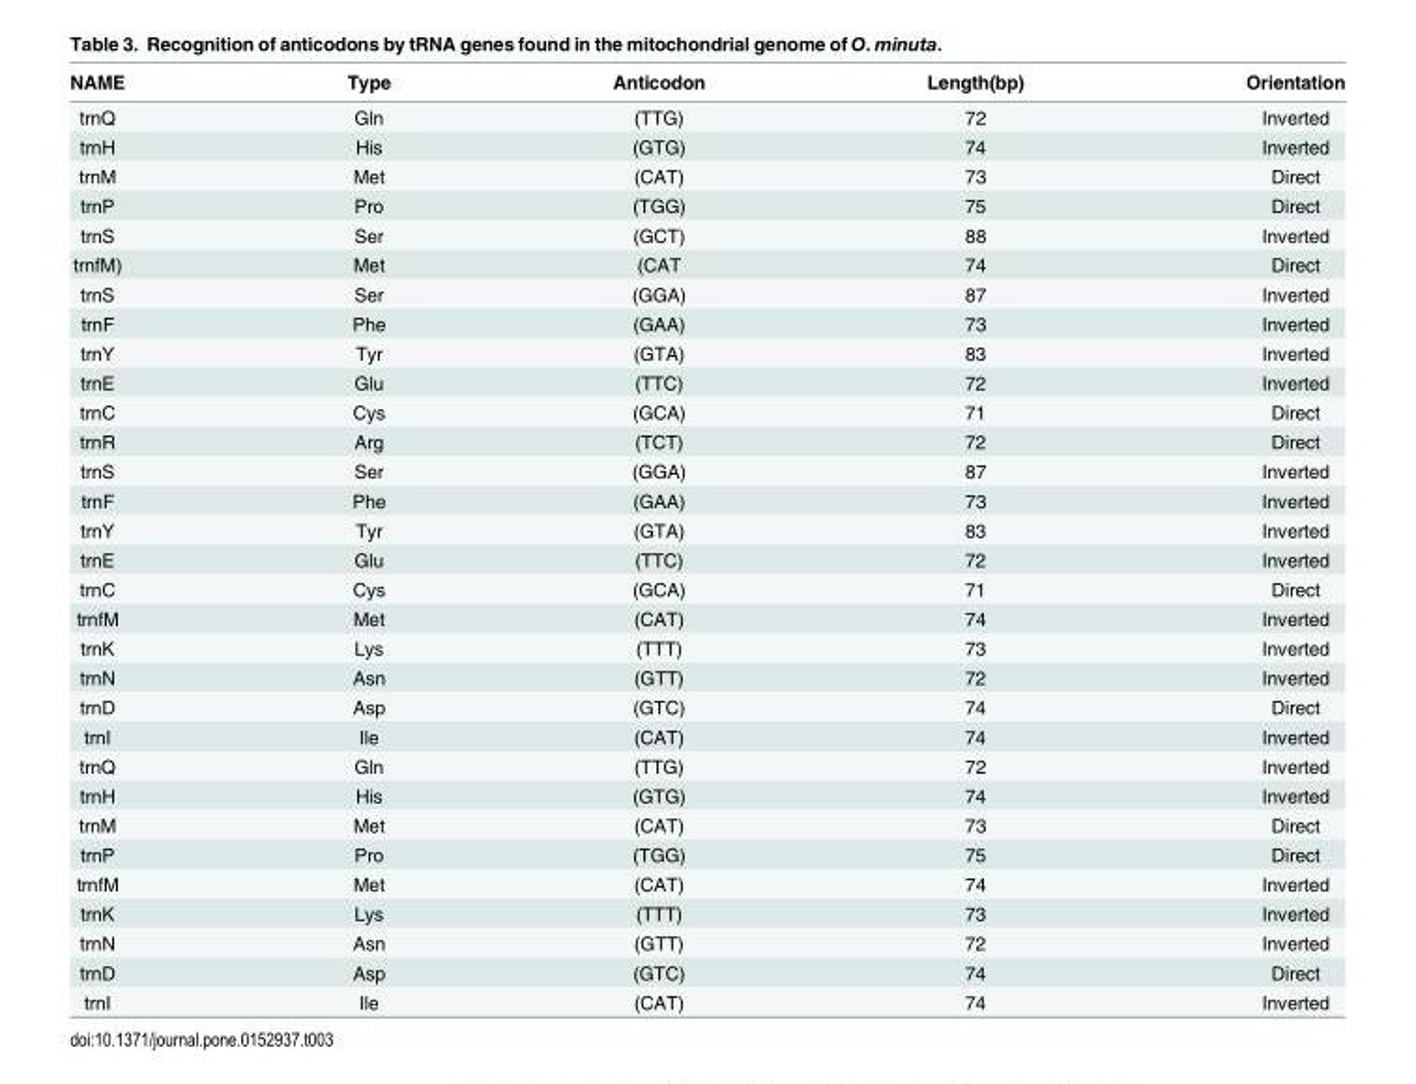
<table><thead><tr><td>NAME</td><td>Type</td><td>Anticodon</td><td>Length(bp)</td><td>Orientation</td></tr></thead><tbody><tr><td>trnQ</td><td>Gln</td><td>(TTG)</td><td>72</td><td>Inverted</td></tr><tr><td>trnH</td><td>His</td><td>(GTG)</td><td>74</td><td>Inverted</td></tr><tr><td>trnM</td><td>Met</td><td>(CAT)</td><td>73</td><td>Direct</td></tr><tr><td>trnP</td><td>Pro</td><td>(TGG)</td><td>75</td><td>Direct</td></tr><tr><td>trnS</td><td>Ser</td><td>(GCT)</td><td>88</td><td>Inverted</td></tr><tr><td>trnfM)</td><td>Met</td><td>(CAT</td><td>74</td><td>Direct</td></tr><tr><td>trnS</td><td>Ser</td><td>(GGA)</td><td>87</td><td>Inverted</td></tr><tr><td>trnF</td><td>Phe</td><td>(GAA)</td><td>73</td><td>Inverted</td></tr><tr><td>trnY</td><td>Tyr</td><td>(GTA)</td><td>83</td><td>Inverted</td></tr><tr><td>trnE</td><td>Glu</td><td>(TTC)</td><td>72</td><td>Inverted</td></tr><tr><td>trnC</td><td>Cys</td><td>(GCA)</td><td>71</td><td>Direct</td></tr><tr><td>trnR</td><td>Arg</td><td>(TCT)</td><td>72</td><td>Direct</td></tr><tr><td>trnS</td><td>Ser</td><td>(GGA)</td><td>87</td><td>Inverted</td></tr><tr><td>trnF</td><td>Phe</td><td>(GAA)</td><td>73</td><td>Inverted</td></tr><tr><td>trnY</td><td>Tyr</td><td>(GTA)</td><td>83</td><td>Inverted</td></tr><tr><td>trnE</td><td>Glu</td><td>(TTC)</td><td>72</td><td>Inverted</td></tr><tr><td>trnC</td><td>Cys</td><td>(GCA)</td><td>71</td><td>Direct</td></tr><tr><td>trnfM</td><td>Met</td><td>(CAT)</td><td>74</td><td>Inverted</td></tr><tr><td>trnK</td><td>Lys</td><td>(TTT)</td><td>73</td><td>Inverted</td></tr><tr><td>trnN</td><td>Asn</td><td>(GTT)</td><td>72</td><td>Inverted</td></tr><tr><td>trnD</td><td>Asp</td><td>(GTC)</td><td>74</td><td>Direct</td></tr><tr><td>trnI</td><td>Ile</td><td>(CAT)</td><td>74</td><td>Inverted</td></tr><tr><td>trnQ</td><td>Gln</td><td>(TTG)</td><td>72</td><td>Inverted</td></tr><tr><td>trnH</td><td>His</td><td>(GTG)</td><td>74</td><td>Inverted</td></tr><tr><td>trnM</td><td>Met</td><td>(CAT)</td><td>73</td><td>Direct</td></tr><tr><td>trnP</td><td>Pro</td><td>(TGG)</td><td>75</td><td>Direct</td></tr><tr><td>trnfM</td><td>Met</td><td>(CAT)</td><td>74</td><td>Inverted</td></tr><tr><td>trnK</td><td>Lys</td><td>(TTT)</td><td>73</td><td>Inverted</td></tr><tr><td>trnN</td><td>Asn</td><td>(GTT)</td><td>72</td><td>Inverted</td></tr><tr><td>trnD</td><td>Asp</td><td>(GTC)</td><td>74</td><td>Direct</td></tr><tr><td>trnI</td><td>Ile</td><td>(CAT)</td><td>74</td><td>Inverted</td></tr></tbody></table>